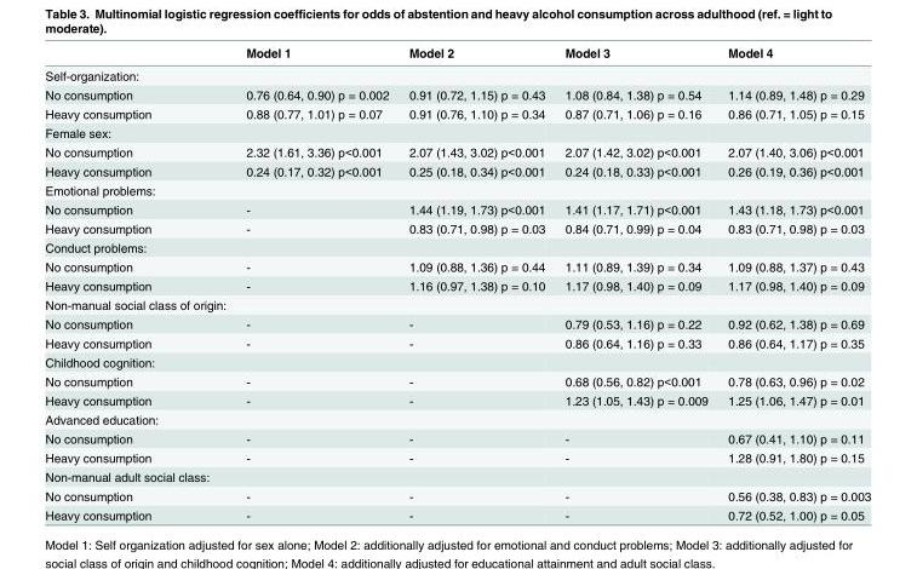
<table><thead><tr><td></td><td>Model 1</td><td>Model 2</td><td>Model 3</td><td>Model 4</td></tr></thead><tbody><tr><td colspan="5">Self-organization:</td></tr><tr><td>No consumption</td><td>0.76 (0.64, 0.90) p = 0.002</td><td>0.91 (0.72, 1.15) p = 0.43</td><td>1.08 (0.84, 1.38) p = 0.54</td><td>1.14 (0.89, 1.48) p = 0.29</td></tr><tr><td>Heavy consumption</td><td>0.88 (0.77, 1.01) p = 0.07</td><td>0.91 (0.76, 1.10) p = 0.34</td><td>0.87 (0.71, 1.06) p = 0.16</td><td>0.86 (0.71, 1.05) p = 0.15</td></tr><tr><td colspan="5">Female sex:</td></tr><tr><td>No consumption</td><td>2.32 (1.61, 3.36) p&lt;0.001</td><td>2.07 (1.43, 3.02) p&lt;0.001</td><td>2.07 (1.42, 3.02) p&lt;0.001</td><td>2.07 (1.40, 3.06) p&lt;0.001</td></tr><tr><td>Heavy consumption</td><td>0.24 (0.17, 0.32) p&lt;0.001</td><td>0.25 (0.18, 0.34) p&lt;0.001</td><td>0.24 (0.18, 0.33) p&lt;0.001</td><td>0.26 (0.19, 0.36) p&lt;0.001</td></tr><tr><td colspan="5">Emotional problems:</td></tr><tr><td>No consumption</td><td>-</td><td>1.44 (1.19, 1.73) p&lt;0.001</td><td>1.41 (1.17, 1.71) p&lt;0.001</td><td>1.43 (1.18, 1.73) p&lt;0.001</td></tr><tr><td>Heavy consumption</td><td>-</td><td>0.83 (0.71, 0.98) p = 0.03</td><td>0.84 (0.71, 0.99) p = 0.04</td><td>0.83 (0.71, 0.98) p = 0.03</td></tr><tr><td colspan="5">Conduct problems:</td></tr><tr><td>No consumption</td><td>-</td><td>1.09 (0.88, 1.36) p = 0.44</td><td>1.11 (0.89, 1.39) p = 0.34</td><td>1.09 (0.88, 1.37) p = 0.43</td></tr><tr><td>Heavy consumption</td><td>-</td><td>1.16 (0.97, 1.38) p = 0.10</td><td>1.17 (0.98, 1.40) p = 0.09</td><td>1.17 (0.98, 1.40) p = 0.09</td></tr><tr><td colspan="5">Non-manual social class of origin:</td></tr><tr><td>No consumption</td><td>-</td><td>-</td><td>0.79 (0.53, 1.16) p = 0.22</td><td>0.92 (0.62, 1.38) p = 0.69</td></tr><tr><td>Heavy consumption</td><td>-</td><td>-</td><td>0.86 (0.64, 1.16) p = 0.33</td><td>0.86 (0.64, 1.17) p = 0.35</td></tr><tr><td colspan="5">Childhood cognition:</td></tr><tr><td>No consumption</td><td>-</td><td>-</td><td>0.68 (0.56, 0.82) p&lt;0.001</td><td>0.78 (0.63, 0.96) p = 0.02</td></tr><tr><td>Heavy consumption</td><td>-</td><td>-</td><td>1.23 (1.05, 1.43) p = 0.009</td><td>1.25 (1.06, 1.47) p = 0.01</td></tr><tr><td colspan="5">Advanced education:</td></tr><tr><td>No consumption</td><td>-</td><td>-</td><td>-</td><td>0.67 (0.41, 1.10) p = 0.11</td></tr><tr><td>Heavy consumption</td><td>-</td><td>-</td><td>-</td><td>1.28 (0.91, 1.80) p = 0.15</td></tr><tr><td colspan="5">Non-manual adult social class:</td></tr><tr><td>No consumption</td><td>-</td><td>-</td><td>-</td><td>0.56 (0.38, 0.83) p = 0.003</td></tr><tr><td>Heavy consumption</td><td>-</td><td>-</td><td>-</td><td>0.72 (0.52, 1.00) p = 0.05</td></tr></tbody></table>